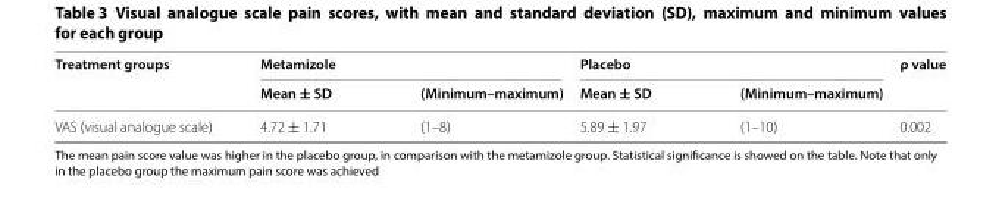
<table><thead><tr><td rowspan="2">Treatment groups</td><td colspan="2">Metamizole</td><td colspan="2">Placebo</td><td rowspan="2">ρ value</td></tr><tr><td>Mean ± SD</td><td>(Minimum–maximum)</td><td>Mean ± SD</td><td>(Minimum–maximum)</td></tr></thead><tbody><tr><td>VAS (visual analogue scale)</td><td>4.72 ± 1.71</td><td>(1–8)</td><td>5.89 ± 1.97</td><td>(1–10)</td><td>0.002</td></tr></tbody></table>